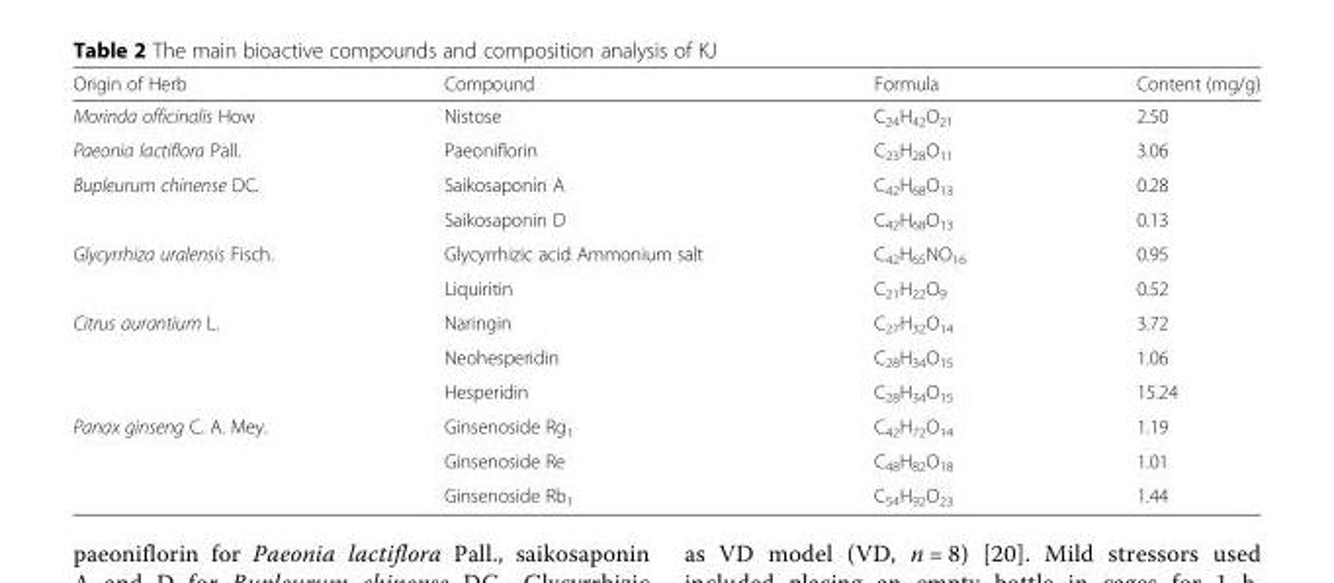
<table><thead><tr><td>Origin of Herb</td><td>Compound</td><td>Formula</td><td>Content (mg/g)</td></tr></thead><tbody><tr><td>Morinda officinalis How</td><td>Nistose</td><td>C<sub>24</sub>H<sub>42</sub>O<sub>21</sub></td><td>2.50</td></tr><tr><td>Paeonia lactiflora Pall.</td><td>Paeoniflorin</td><td>C<sub>23</sub>H<sub>28</sub>O<sub>11</sub></td><td>3.06</td></tr><tr><td rowspan="2">Bupleurum chinense DC.</td><td>Saikosaponin A</td><td>C<sub>42</sub>H<sub>68</sub>O<sub>13</sub></td><td>0.28</td></tr><tr><td>Saikosaponin D</td><td>C<sub>42</sub>H<sub>68</sub>O<sub>13</sub></td><td>0.13</td></tr><tr><td rowspan="2">Glycyrrhiza uralensis Fisch.</td><td>Glycyrrhizic acid Ammonium salt</td><td>C<sub>42</sub>H<sub>65</sub>NO<sub>16</sub></td><td>0.95</td></tr><tr><td>Liquiritin</td><td>C<sub>21</sub>H<sub>22</sub>O<sub>9</sub></td><td>0.52</td></tr><tr><td rowspan="3">Citrus aurantium L.</td><td>Naringin</td><td>C<sub>27</sub>H<sub>32</sub>O<sub>14</sub></td><td>3.72</td></tr><tr><td>Neohesperidin</td><td>C<sub>28</sub>H<sub>34</sub>O<sub>15</sub></td><td>1.06</td></tr><tr><td>Hesperidin</td><td>C<sub>28</sub>H<sub>34</sub>O<sub>15</sub></td><td>15.24</td></tr><tr><td rowspan="3">Panax ginseng C. A. Mey.</td><td>Ginsenoside Rg<sub>1</sub></td><td>C<sub>42</sub>H<sub>72</sub>O<sub>14</sub></td><td>1.19</td></tr><tr><td>Ginsenoside Re</td><td>C<sub>48</sub>H<sub>82</sub>O<sub>18</sub></td><td>1.01</td></tr><tr><td>Ginsenoside Rb<sub>1</sub></td><td>C<sub>54</sub>H<sub>92</sub>O<sub>23</sub></td><td>1.44</td></tr></tbody></table>